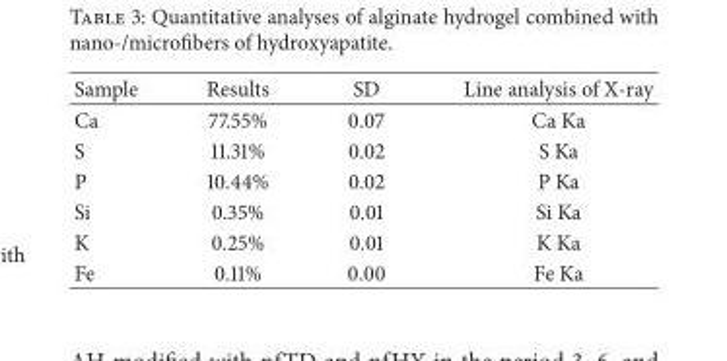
<table><thead><tr><td>Sample</td><td>Results</td><td>SD</td><td>Line analysis of X-ray</td></tr></thead><tbody><tr><td>Ca</td><td>77.55%</td><td>0.07</td><td>Ca Ka</td></tr><tr><td>S</td><td>11.31%</td><td>0.02</td><td>S Ka</td></tr><tr><td>P</td><td>10.44%</td><td>0.02</td><td>P Ka</td></tr><tr><td>Si</td><td>0.35%</td><td>0.01</td><td>Si Ka</td></tr><tr><td>K</td><td>0.25%</td><td>0.01</td><td>K Ka</td></tr><tr><td>Fe</td><td>0.11%</td><td>0.00</td><td>Fe Ka</td></tr></tbody></table>